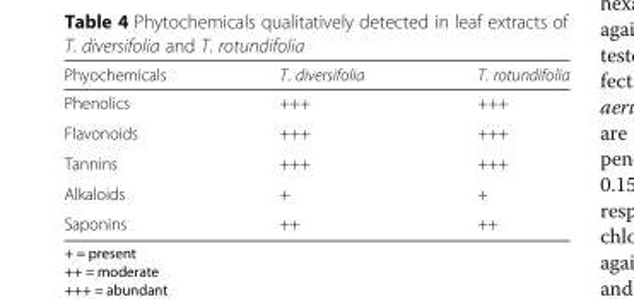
<table><thead><tr><td>Phyochemicals</td><td>T. diversifolia</td><td>T. rotundifolia</td></tr></thead><tbody><tr><td>Phenolics</td><td>+++</td><td>+++</td></tr><tr><td>Flavonoids</td><td>+++</td><td>+++</td></tr><tr><td>Tannins</td><td>+++</td><td>+++</td></tr><tr><td>Alkaloids</td><td>+</td><td>+</td></tr><tr><td>Saponins</td><td>++</td><td>++</td></tr></tbody></table>